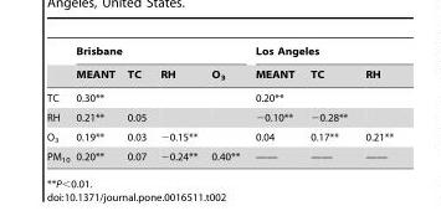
<table><thead><tr><td rowspan="2"></td><td colspan="4">Brisbane</td><td colspan="3">Los Angeles</td></tr><tr><td>MEANT</td><td>TC</td><td>RH</td><td>O<sub>3</sub></td><td>MEANT</td><td>TC</td><td>RH</td></tr></thead><tbody><tr><td>TC</td><td>0.30**</td><td></td><td></td><td></td><td>0.20**</td><td></td><td></td></tr><tr><td>RH</td><td>0.21**</td><td>0.05</td><td></td><td></td><td>−0.10**</td><td>−0.28**</td><td></td></tr><tr><td>O<sub>3</sub></td><td>0.19**</td><td>0.03</td><td>−0.15**</td><td></td><td>0.04</td><td>0.17**</td><td>0.21**</td></tr><tr><td>PM<sub>10</sub></td><td>0.20**</td><td>0.07</td><td>−0.24**</td><td>0.40**</td><td>——</td><td>——</td><td>——</td></tr></tbody></table>